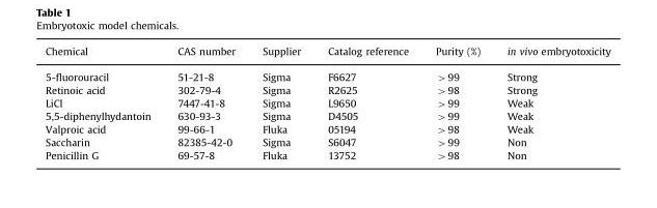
<table><thead><tr><td>Chemical</td><td>CAS number</td><td>Supplier</td><td>Catalog reference</td><td>Purity (%)</td><td>in vivo embryotoxicity</td></tr></thead><tbody><tr><td>5-fluorouracil</td><td>51-21-8</td><td>Sigma</td><td>F6627</td><td>&gt;99</td><td>Strong</td></tr><tr><td>Retinoic acid</td><td>302-79-4</td><td>Sigma</td><td>R2625</td><td>&gt;98</td><td>Strong</td></tr><tr><td>LiCl</td><td>7447-41-8</td><td>Sigma</td><td>L9650</td><td>&gt;99</td><td>Weak</td></tr><tr><td>5,5-diphenylhydantoin</td><td>630-93-3</td><td>Sigma</td><td>D4505</td><td>&gt;99</td><td>Weak</td></tr><tr><td>Valproic acid</td><td>99-66-1</td><td>Fluka</td><td>05194</td><td>&gt;98</td><td>Weak</td></tr><tr><td>Saccharin</td><td>82385-42-0</td><td>Sigma</td><td>S6047</td><td>&gt;99</td><td>Non</td></tr><tr><td>Penicillin G</td><td>69-57-8</td><td>Fluka</td><td>13752</td><td>&gt;98</td><td>Non</td></tr></tbody></table>